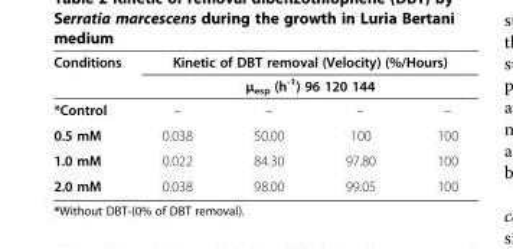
<table><thead><tr><td rowspan="3">Conditions *Control</td><td rowspan="2" colspan="4">Kinetic of DBT removal (Velocity) (%/Hours) μ<sub>esp</sub> (h<sup>-1</sup>) 96 120 144</td></tr><tr></tr><tr><td>–</td><td>–</td><td>–</td><td>–</td></tr></thead><tbody><tr><td>0.5 mM</td><td>0.038</td><td>50.00</td><td>100</td><td>100</td></tr><tr><td>1.0 mM</td><td>0.022</td><td>84.30</td><td>97.80</td><td>100</td></tr><tr><td>2.0 mM</td><td>0.038</td><td>98.00</td><td>99.05</td><td>100</td></tr></tbody></table>